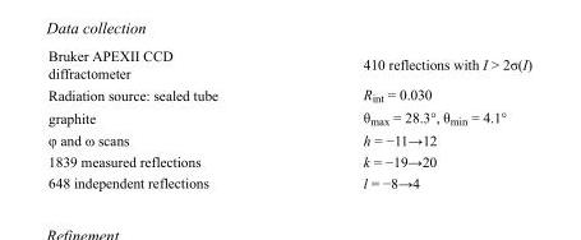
<table><tbody><tr><td>Bruker APEXII CCD diffractometer</td><td>410 reflections with I &gt; 2σ(I)</td></tr><tr><td>Radiation source: sealed tube</td><td>R<sub>int</sub> = 0.030</td></tr><tr><td>graphite</td><td>θ<sub>max</sub> = 28.3°, θ<sub>min</sub> = 4.1°</td></tr><tr><td>φ and ω scans</td><td>h = −11→12</td></tr><tr><td>1839 measured reflections</td><td>k = −19→20</td></tr><tr><td>648 independent reflections</td><td>l = −8→4</td></tr></tbody></table>